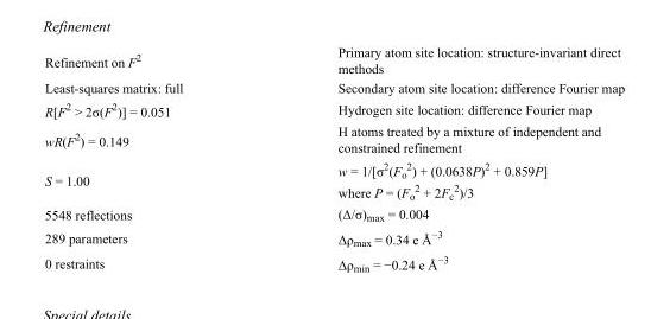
<table><tbody><tr><td>Refinement on F<sup>2</sup></td><td>Primary atom site location: structure-invariant direct methods</td></tr><tr><td>Least-squares matrix: full</td><td>Secondary atom site location: difference Fourier map</td></tr><tr><td>R[F<sup>2</sup> &gt; 2σ(F<sup>2</sup>)] = 0.051</td><td>Hydrogen site location: difference Fourier map</td></tr><tr><td>wR(F<sup>2</sup>) = 0.149</td><td>H atoms treated by a mixture of independent and constrained refinement</td></tr><tr><td>S = 1.00</td><td>w = 1/[σ<sup>2</sup>(F<sub>o</sub> <sup>2</sup>) + (0.0638P)<sup>2</sup> + 0.859P] where P = (F<sub>o</sub> <sup>2</sup> + 2F<sub>c</sub> <sup>2</sup>)/3</td></tr><tr><td>5548 reflections</td><td>(Δ/σ)<sub>max</sub> = 0.004</td></tr><tr><td>289 parameters</td><td>Δρ<sub>max</sub> = 0.34 e Å<sup>−3</sup></td></tr><tr><td>0 restraints</td><td>Δρ<sub>min</sub> = −0.24 e Å<sup>−3</sup></td></tr></tbody></table>